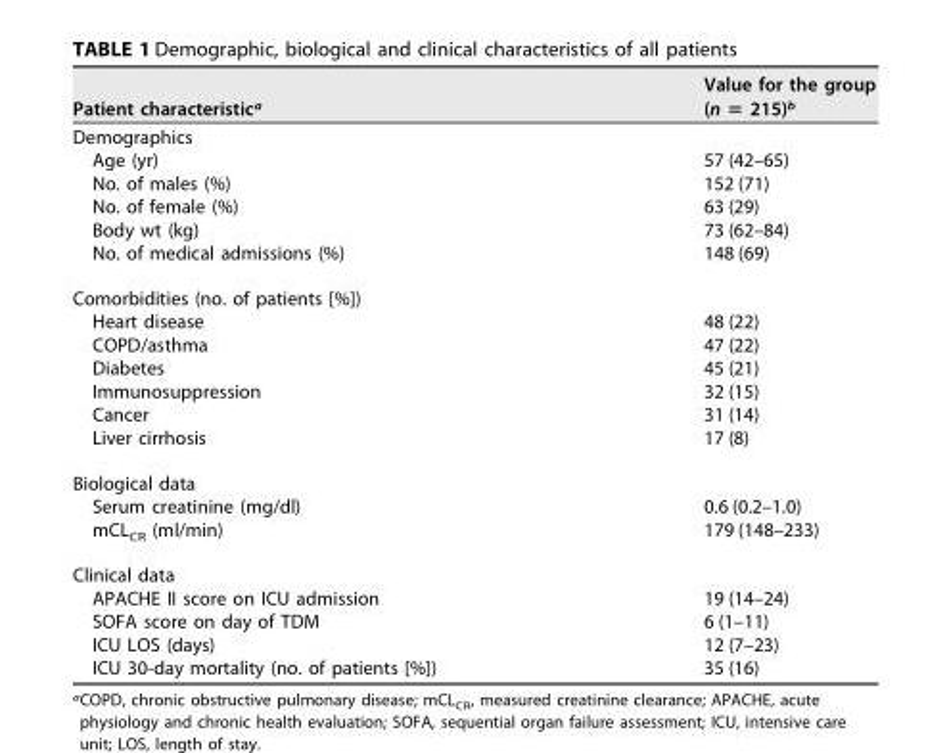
<table><thead><tr><td>Patient characteristic<sup>a</sup></td><td>Value for the group (n = 215)<sup>b</sup></td></tr></thead><tbody><tr><td colspan="2">Demographics</td></tr><tr><td>Age (yr)</td><td>57 (42–65)</td></tr><tr><td>No. of males (%)</td><td>152 (71)</td></tr><tr><td>No. of female (%)</td><td>63 (29)</td></tr><tr><td>Body wt (kg)</td><td>73 (62–84)</td></tr><tr><td>No. of medical admissions (%)</td><td>148 (69)</td></tr><tr><td colspan="2">Comorbidities (no. of patients [%])</td></tr><tr><td>Heart disease</td><td>48 (22)</td></tr><tr><td>COPD/asthma</td><td>47 (22)</td></tr><tr><td>Diabetes</td><td>45 (21)</td></tr><tr><td>Immunosuppression</td><td>32 (15)</td></tr><tr><td>Cancer</td><td>31 (14)</td></tr><tr><td>Liver cirrhosis</td><td>17 (8)</td></tr><tr><td colspan="2">Biological data</td></tr><tr><td>Serum creatinine (mg/dl)</td><td>0.6 (0.2–1.0)</td></tr><tr><td>mCL<sub>CR</sub> (ml/min)</td><td>179 (148–233)</td></tr><tr><td colspan="2">Clinical data</td></tr><tr><td>APACHE II score on ICU admission</td><td>19 (14–24)</td></tr><tr><td>SOFA score on day of TDM</td><td>6 (1–11)</td></tr><tr><td>ICU LOS (days)</td><td>12 (7–23)</td></tr><tr><td>ICU 30-day mortality (no. of patients [%])</td><td>35 (16)</td></tr></tbody></table>